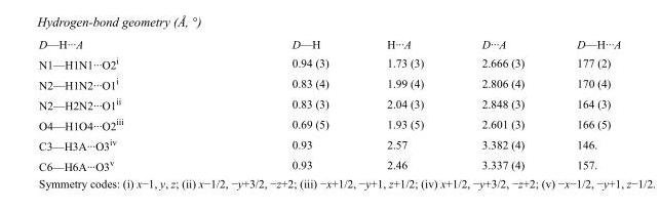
<table><tbody><tr><td>D—H···A</td><td>D—H</td><td>H···A</td><td>D···A</td><td>D—H···A</td></tr><tr><td>N1—H1N1···O2<sup>i</sup></td><td>0.94 (3)</td><td>1.73 (3)</td><td>2.666 (3)</td><td>177 (2)</td></tr><tr><td>N2—H1N2···O1<sup>i</sup></td><td>0.83 (4)</td><td>1.99 (4)</td><td>2.806 (4)</td><td>170 (4)</td></tr><tr><td>N2—H2N2···O1<sup>ii</sup></td><td>0.83 (3)</td><td>2.04 (3)</td><td>2.848 (3)</td><td>164 (3)</td></tr><tr><td>O4—H1O4···O2<sup>iii</sup></td><td>0.69 (5)</td><td>1.93 (5)</td><td>2.601 (3)</td><td>166 (5)</td></tr><tr><td>C3—H3A···O3<sup>iv</sup></td><td>0.93</td><td>2.57</td><td>3.382 (4)</td><td>146.</td></tr><tr><td>C6—H6A···O3<sup>v</sup></td><td>0.93</td><td>2.46</td><td>3.337 (4)</td><td>157.</td></tr></tbody></table>